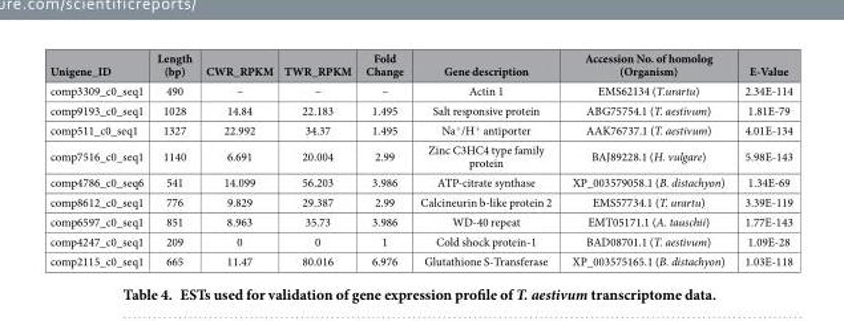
<table><thead><tr><td>Unigene_ID</td><td>Length (bp)</td><td>CWR_RPKM</td><td>TWR_RPKM</td><td>Fold Change</td><td>Gene description</td><td>Accession No. of homolog (Organism)</td><td>E-Value</td></tr></thead><tbody><tr><td>comp3309_c0_seq1</td><td>490</td><td>–</td><td>–</td><td>–</td><td>Actin 1</td><td>EMS62134 (T.urartu)</td><td>2.34E-114</td></tr><tr><td>comp9193_c0_seq1</td><td>1028</td><td>14.84</td><td>22.183</td><td>1.495</td><td>Salt responsive protein</td><td>ABG75754.1 (T. aestivum)</td><td>1.81E-79</td></tr><tr><td>comp511_c0_seq1</td><td>1327</td><td>22.992</td><td>34.37</td><td>1.495</td><td>Na<sup>+</sup>/H<sup>+</sup> antiporter</td><td>AAK76737.1 (T. aestivum)</td><td>4.01E-134</td></tr><tr><td>comp7516_c0_seq1</td><td>1140</td><td>6.691</td><td>20.004</td><td>2.99</td><td>Zinc C3HC4 type family protein</td><td>BAJ89228.1 (H. vulgare)</td><td>5.98E-143</td></tr><tr><td>comp4786_c0_seq6</td><td>541</td><td>14.099</td><td>56.203</td><td>3.986</td><td>ATP-citrate synthase</td><td>XP_003579058.1 (B. distachyon)</td><td>1.34E-69</td></tr><tr><td>comp8612_c0_seq1</td><td>776</td><td>9.829</td><td>29.387</td><td>2.99</td><td>Calcineurin b-like protein 2</td><td>EMS57734.1 (T. urartu)</td><td>3.39E-119</td></tr><tr><td>comp6597_c0_seq1</td><td>851</td><td>8.963</td><td>35.73</td><td>3.986</td><td>WD-40 repeat</td><td>EMT05171.1 (A. tauschii)</td><td>1.77E-143</td></tr><tr><td>comp4247_c0_seq1</td><td>209</td><td>0</td><td>0</td><td>1</td><td>Cold shock protein-1</td><td>BAD08701.1 (T. aestivum)</td><td>1.09E-28</td></tr><tr><td>comp2115_c0_seq1</td><td>665</td><td>11.47</td><td>80.016</td><td>6.976</td><td>Glutathione S-Transferase</td><td>XP_003575165.1 (B. distachyon)</td><td>1.03E-118</td></tr></tbody></table>